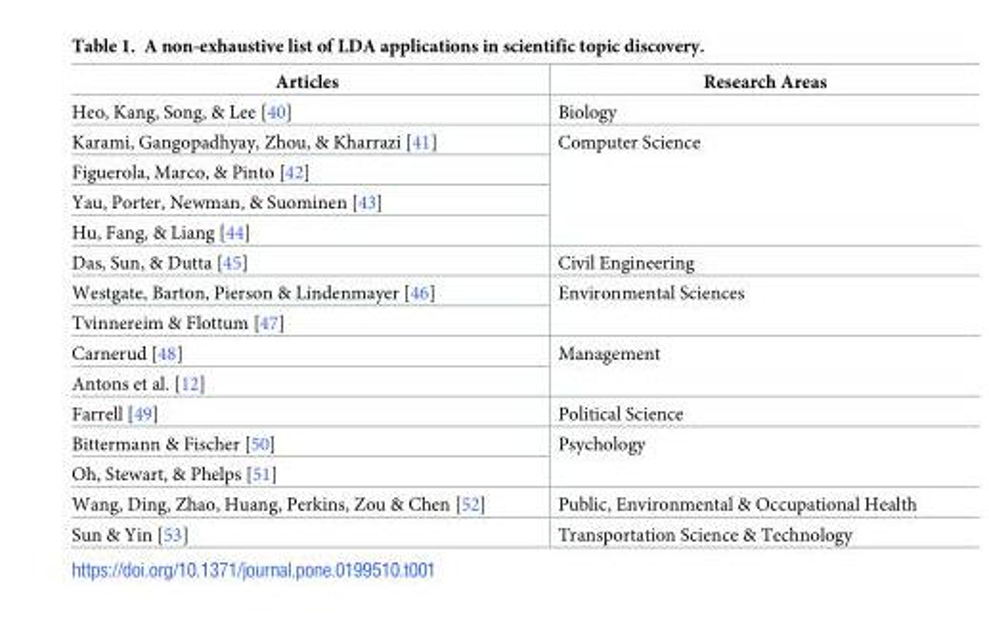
<table><thead><tr><td>Articles</td><td>Research Areas</td></tr></thead><tbody><tr><td>Heo, Kang, Song, &amp; Lee [40]</td><td>Biology</td></tr><tr><td>Karami, Gangopadhyay, Zhou, &amp; Kharrazi [41]</td><td rowspan="4">Computer Science</td></tr><tr><td>Figuerola, Marco, &amp; Pinto [42]</td></tr><tr><td>Yau, Porter, Newman, &amp; Suominen [43]</td></tr><tr><td>Hu, Fang, &amp; Liang [44]</td></tr><tr><td>Das, Sun, &amp; Dutta [45]</td><td>Civil Engineering</td></tr><tr><td>Westgate, Barton, Pierson &amp; Lindenmayer [46]</td><td rowspan="2">Environmental Sciences</td></tr><tr><td>Tvinnereim &amp; Flottum [47]</td></tr><tr><td>Carnerud [48]</td><td rowspan="2">Management</td></tr><tr><td>Antons et al. [12]</td></tr><tr><td>Farrell [49]</td><td>Political Science</td></tr><tr><td>Bittermann &amp; Fischer [50]</td><td rowspan="2">Psychology</td></tr><tr><td>Oh, Stewart, &amp; Phelps [51]</td></tr><tr><td>Wang, Ding, Zhao, Huang, Perkins, Zou &amp; Chen [52]</td><td>Public, Environmental &amp; Occupational Health</td></tr><tr><td>Sun &amp; Yin [53]</td><td>Transportation Science &amp; Technology</td></tr></tbody></table>